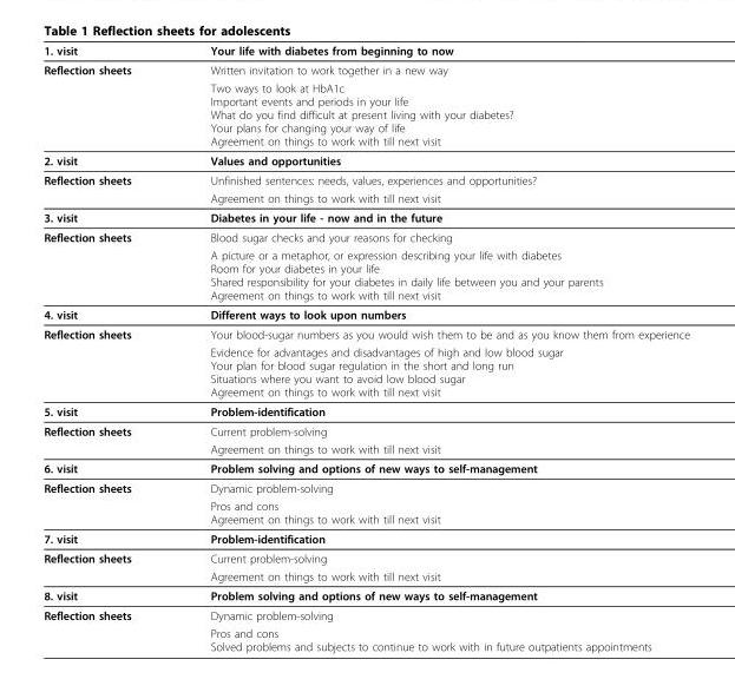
<table><thead><tr><td>1. visit</td><td>Your life with diabetes from beginning to now</td></tr></thead><tbody><tr><td rowspan="2">Reflection sheets</td><td>Written invitation to work together in a new way</td></tr><tr><td>Two ways to look at HbA1c Important events and periods in your life What do you find difficult at present living with your diabetes? Your plans for changing your way of life Agreement on things to work with till next visit</td></tr><tr><td>2. visit</td><td>Values and opportunities</td></tr><tr><td rowspan="2">Reflection sheets</td><td>Unfinished sentences: needs, values, experiences and opportunities?</td></tr><tr><td>Agreement on things to work with till next visit</td></tr><tr><td>3. visit</td><td>Diabetes in your life - now and in the future</td></tr><tr><td rowspan="2">Reflection sheets</td><td>Blood sugar checks and your reasons for checking</td></tr><tr><td>A picture or a metaphor, or expression describing your life with diabetes Room for your diabetes in your life Shared responsibility for your diabetes in daily life between you and your parents Agreement on things to work with till next visit</td></tr><tr><td>4. visit</td><td>Different ways to look upon numbers</td></tr><tr><td rowspan="2">Reflection sheets</td><td>Your blood-sugar numbers as you would wish them to be and as you know them from experience</td></tr><tr><td>Evidence for advantages and disadvantages of high and low blood sugar Your plan for blood sugar regulation in the short and long run Situations where you want to avoid low blood sugar Agreement on things to work with till next visit</td></tr><tr><td>5. visit</td><td>Problem-identification</td></tr><tr><td rowspan="2">Reflection sheets</td><td>Current problem-solving</td></tr><tr><td>Agreement on things to work with till next visit</td></tr><tr><td>6. visit</td><td>Problem solving and options of new ways to self-management</td></tr><tr><td rowspan="2">Reflection sheets</td><td>Dynamic problem-solving</td></tr><tr><td>Pros and cons Agreement on things to work with till next visit</td></tr><tr><td>7. visit</td><td>Problem-identification</td></tr><tr><td rowspan="2">Reflection sheets</td><td>Current problem-solving</td></tr><tr><td>Agreement on things to work with till next visit</td></tr><tr><td>8. visit</td><td>Problem solving and options of new ways to self-management</td></tr><tr><td rowspan="2">Reflection sheets</td><td>Dynamic problem-solving</td></tr><tr><td>Pros and cons Solved problems and subjects to continue to work with in future outpatients appointments</td></tr></tbody></table>